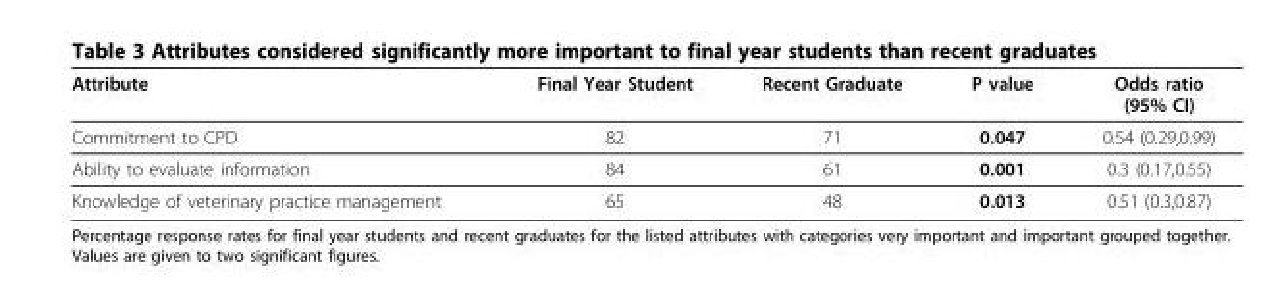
<table><thead><tr><td>Attribute</td><td>Final Year Student</td><td>Recent Graduate</td><td>P value</td><td>Odds ratio (95% CI)</td></tr></thead><tbody><tr><td>Commitment to CPD</td><td>82</td><td>71</td><td>0.047</td><td>0.54 (0.29,0.99)</td></tr><tr><td>Ability to evaluate information</td><td>84</td><td>61</td><td>0.001</td><td>0.3 (0.17,0.55)</td></tr><tr><td>Knowledge of veterinary practice management</td><td>65</td><td>48</td><td>0.013</td><td>0.51 (0.3,0.87)</td></tr></tbody></table>